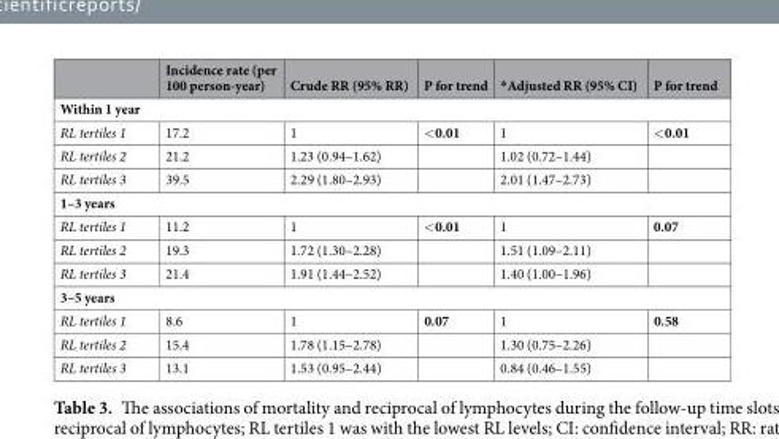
<table><thead><tr><td></td><td>Incidence rate (per 100 person-year)</td><td>Crude RR (95% RR)</td><td>P for trend</td><td>*Adjusted RR (95% CI)</td><td>P for trend</td></tr></thead><tbody><tr><td colspan="6">Within 1 year</td></tr><tr><td>RL tertiles 1</td><td>17.2</td><td>1</td><td>&lt;0.01</td><td>1</td><td>&lt;0.01</td></tr><tr><td>RL tertiles 2</td><td>21.2</td><td>1.23 (0.94–1.62)</td><td></td><td>1.02 (0.72–1.44)</td><td></td></tr><tr><td>RL tertiles 3</td><td>39.5</td><td>2.29 (1.80–2.93)</td><td></td><td>2.01 (1.47–2.73)</td><td></td></tr><tr><td colspan="6">1–3 years</td></tr><tr><td>RL tertiles 1</td><td>11.2</td><td>1</td><td>&lt;0.01</td><td>1</td><td>0.07</td></tr><tr><td>RL tertiles 2</td><td>19.3</td><td>1.72 (1.30–2.28)</td><td></td><td>1.51 (1.09–2.11)</td><td></td></tr><tr><td>RL tertiles 3</td><td>21.4</td><td>1.91 (1.44–2.52)</td><td></td><td>1.40 (1.00–1.96)</td><td></td></tr><tr><td colspan="6">3–5 years</td></tr><tr><td>RL tertiles 1</td><td>8.6</td><td>1</td><td>0.07</td><td>1</td><td>0.58</td></tr><tr><td>RL tertiles 2</td><td>15.4</td><td>1.78 (1.15–2.78)</td><td></td><td>1.30 (0.75–2.26)</td><td></td></tr><tr><td>RL tertiles 3</td><td>13.1</td><td>1.53 (0.95–2.44)</td><td></td><td>0.84 (0.46–1.55)</td><td></td></tr></tbody></table>